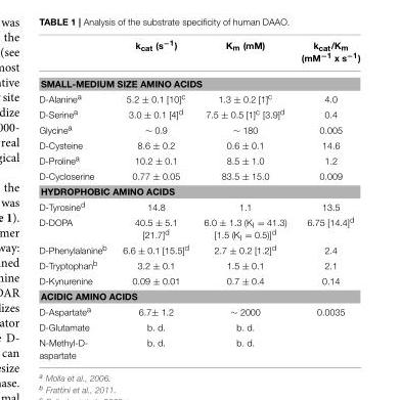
<table><thead><tr><td></td><td>k<sub>cat</sub> (s<sup>−1</sup>)</td><td>K<sub>m</sub> (mM)</td><td>k<sub>cat</sub>/K<sub>m</sub> (mM<sup>−1</sup> x s<sup>−1</sup>)</td></tr></thead><tbody><tr><td colspan="4">SMALL-MEDIUM SIZE AMINO ACIDS</td></tr><tr><td>D-Alanine<sup>a</sup></td><td>5.2 ± 0.1 [10]<sup>c</sup></td><td>1.3 ± 0.2 [1]<sup>c</sup></td><td>4.0</td></tr><tr><td>D-Serine<sup>a</sup></td><td>3.0 ± 0.1 [4]<sup>d</sup></td><td>7.5 ± 0.5 [1]<sup>c</sup> [3.9]<sup>d</sup></td><td>0.4</td></tr><tr><td>Glycine<sup>a</sup></td><td>∼ 0.9</td><td>∼ 180</td><td>0.005</td></tr><tr><td>D-Cysteine</td><td>8.6 ± 0.2</td><td>0.6 ± 0.1</td><td>14.6</td></tr><tr><td>D-Proline<sup>a</sup></td><td>10.2 ± 0.1</td><td>8.5 ± 1.0</td><td>1.2</td></tr><tr><td>D-Cycloserine</td><td>0.77 ± 0.05</td><td>83.5 ± 15.0</td><td>0.009</td></tr><tr><td colspan="4">HYDROPHOBIC AMINO ACIDS</td></tr><tr><td>D-Tyrosine<sup>d</sup></td><td>14.8</td><td>1.1</td><td>13.5</td></tr><tr><td>D-DOPA</td><td>40.5 ± 5.1 [21.7]<sup>d</sup></td><td>6.0 ± 1.3 (K<sub>I</sub> = 41.3) [1.5 (K<sub>I</sub> = 0.5)]<sup>d</sup></td><td>6.75 [14.4]<sup>d</sup></td></tr><tr><td>D-Phenylalanine<sup>b</sup></td><td>6.6 ± 0.1 [15.5]<sup>d</sup></td><td>2.7 ± 0.2 [1.2]<sup>d</sup></td><td>2.4</td></tr><tr><td>D-Tryptophan<sup>b</sup></td><td>3.2 ± 0.1</td><td>1.5 ± 0.1</td><td>2.1</td></tr><tr><td>D-Kynurenine</td><td>0.09 ± 0.01</td><td>0.7 ± 0.4</td><td>0.14</td></tr><tr><td colspan="4">ACIDIC AMINO ACIDS</td></tr><tr><td>D-Aspartate<sup>a</sup></td><td>6.7± 1.2</td><td>∼ 2000</td><td>0.0035</td></tr><tr><td>D-Glutamate</td><td>b. d.</td><td>b. d.</td><td></td></tr><tr><td>N-Methyl-D- aspartate</td><td>b. d.</td><td>b. d.</td><td></td></tr></tbody></table>